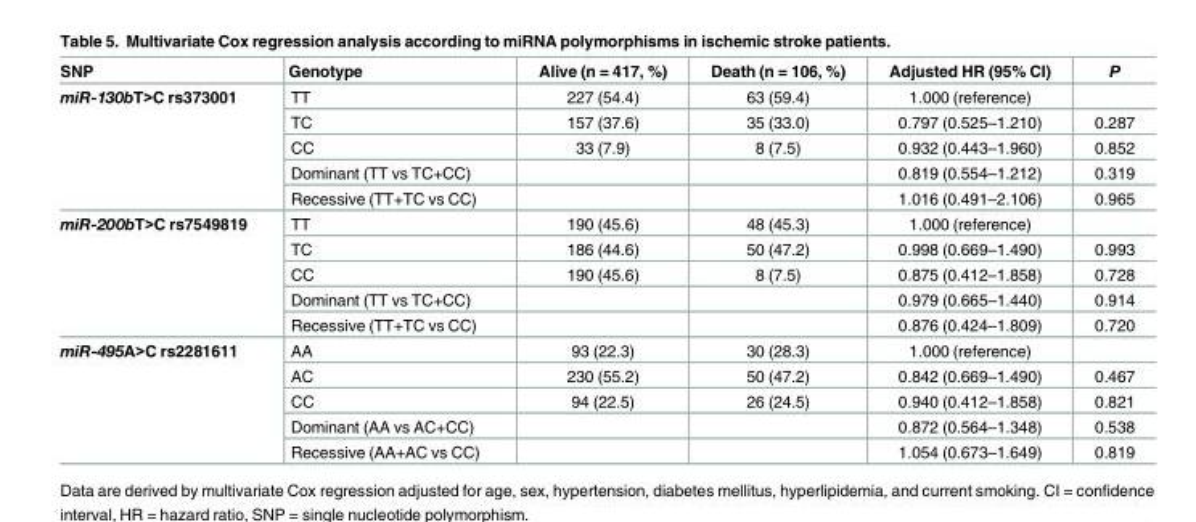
<table><thead><tr><td>SNP</td><td>Genotype</td><td>Alive (n = 417, %)</td><td>Death (n = 106, %)</td><td>Adjusted HR (95% CI)</td><td>P</td></tr></thead><tbody><tr><td rowspan="5">miR-130bT&gt;C rs373001</td><td>TT</td><td>227 (54.4)</td><td>63 (59.4)</td><td>1.000 (reference)</td><td></td></tr><tr><td>TC</td><td>157 (37.6)</td><td>35 (33.0)</td><td>0.797 (0.525–1.210)</td><td>0.287</td></tr><tr><td>CC</td><td>33 (7.9)</td><td>8 (7.5)</td><td>0.932 (0.443–1.960)</td><td>0.852</td></tr><tr><td>Dominant (TT vs TC+CC)</td><td></td><td></td><td>0.819 (0.554–1.212)</td><td>0.319</td></tr><tr><td>Recessive (TT+TC vs CC)</td><td></td><td></td><td>1.016 (0.491–2.106)</td><td>0.965</td></tr><tr><td rowspan="5">miR-200bT&gt;C rs7549819</td><td>TT</td><td>190 (45.6)</td><td>48 (45.3)</td><td>1.000 (reference)</td><td></td></tr><tr><td>TC</td><td>186 (44.6)</td><td>50 (47.2)</td><td>0.998 (0.669–1.490)</td><td>0.993</td></tr><tr><td>CC</td><td>190 (45.6)</td><td>8 (7.5)</td><td>0.875 (0.412–1.858)</td><td>0.728</td></tr><tr><td>Dominant (TT vs TC+CC)</td><td></td><td></td><td>0.979 (0.665–1.440)</td><td>0.914</td></tr><tr><td>Recessive (TT+TC vs CC)</td><td></td><td></td><td>0.876 (0.424–1.809)</td><td>0.720</td></tr><tr><td rowspan="5">miR-495A&gt;C rs2281611</td><td>AA</td><td>93 (22.3)</td><td>30 (28.3)</td><td>1.000 (reference)</td><td></td></tr><tr><td>AC</td><td>230 (55.2)</td><td>50 (47.2)</td><td>0.842 (0.669–1.490)</td><td>0.467</td></tr><tr><td>CC</td><td>94 (22.5)</td><td>26 (24.5)</td><td>0.940 (0.412–1.858)</td><td>0.821</td></tr><tr><td>Dominant (AA vs AC+CC)</td><td></td><td></td><td>0.872 (0.564–1.348)</td><td>0.538</td></tr><tr><td>Recessive (AA+AC vs CC)</td><td></td><td></td><td>1.054 (0.673–1.649)</td><td>0.819</td></tr></tbody></table>